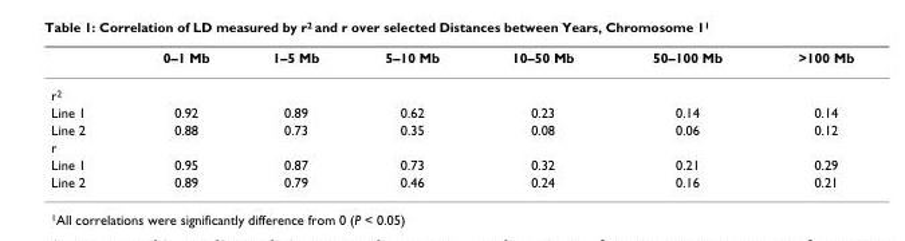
<table><thead><tr><td></td><td>0–1 Mb</td><td>1–5 Mb</td><td>5–10 Mb</td><td>10–50 Mb</td><td>50–100 Mb</td><td>&gt;100 Mb</td></tr></thead><tbody><tr><td colspan="7">r<sup>2</sup></td></tr><tr><td>Line 1</td><td>0.92</td><td>0.89</td><td>0.62</td><td>0.23</td><td>0.14</td><td>0.14</td></tr><tr><td>Line 2</td><td>0.88</td><td>0.73</td><td>0.35</td><td>0.08</td><td>0.06</td><td>0.12</td></tr><tr><td colspan="7">r</td></tr><tr><td>Line 1</td><td>0.95</td><td>0.87</td><td>0.73</td><td>0.32</td><td>0.21</td><td>0.29</td></tr><tr><td>Line 2</td><td>0.89</td><td>0.79</td><td>0.46</td><td>0.24</td><td>0.16</td><td>0.21</td></tr></tbody></table>